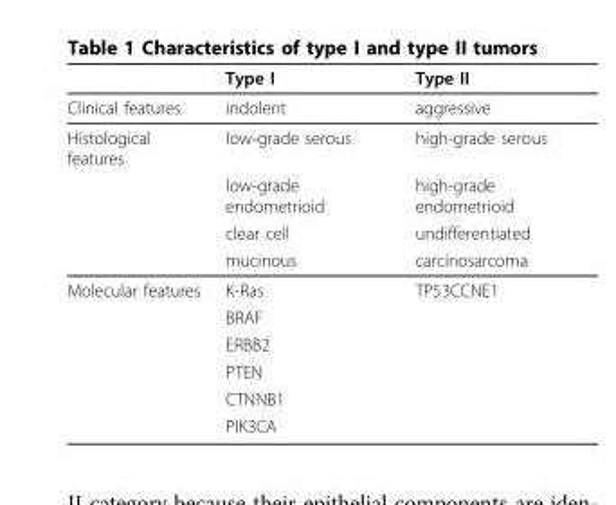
<table><thead><tr><td></td><td>Type I</td><td>Type II</td></tr></thead><tbody><tr><td>Clinical features</td><td>indolent</td><td>aggressive</td></tr><tr><td rowspan="4">Histological features</td><td>low-grade serous</td><td>high-grade serous</td></tr><tr><td>low-grade endometrioid</td><td>high-grade endometrioid</td></tr><tr><td>clear cell</td><td>undifferentiated</td></tr><tr><td>mucinous</td><td>carcinosarcoma</td></tr><tr><td rowspan="6">Molecular features</td><td>K-Ras</td><td>TP53CCNE1</td></tr><tr><td>BRAF</td><td></td></tr><tr><td>ERBB2</td><td></td></tr><tr><td>PTEN</td><td></td></tr><tr><td>CTNNB1</td><td></td></tr><tr><td>PIK3CA</td><td></td></tr></tbody></table>